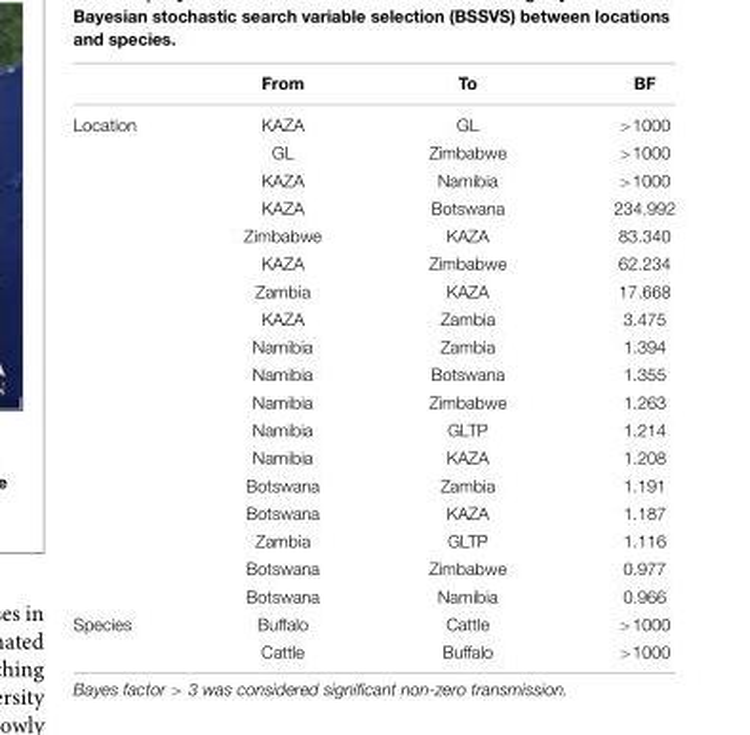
<table><thead><tr><td></td><td>From</td><td>To</td><td>BF</td></tr></thead><tbody><tr><td rowspan="18">Location</td><td>KAZA</td><td>GL</td><td>&gt;1000</td></tr><tr><td>GL</td><td>Zimbabwe</td><td>&gt;1000</td></tr><tr><td>KAZA</td><td>Namibia</td><td>&gt;1000</td></tr><tr><td>KAZA</td><td>Botswana</td><td>234.992</td></tr><tr><td>Zimbabwe</td><td>KAZA</td><td>83.340</td></tr><tr><td>KAZA</td><td>Zimbabwe</td><td>62.234</td></tr><tr><td>Zambia</td><td>KAZA</td><td>17.668</td></tr><tr><td>KAZA</td><td>Zambia</td><td>3.475</td></tr><tr><td>Namibia</td><td>Zambia</td><td>1.394</td></tr><tr><td>Namibia</td><td>Botswana</td><td>1.355</td></tr><tr><td>Namibia</td><td>Zimbabwe</td><td>1.263</td></tr><tr><td>Namibia</td><td>GLTP</td><td>1.214</td></tr><tr><td>Namibia</td><td>KAZA</td><td>1.208</td></tr><tr><td>Botswana</td><td>Zambia</td><td>1.191</td></tr><tr><td>Botswana</td><td>KAZA</td><td>1.187</td></tr><tr><td>Zambia</td><td>GLTP</td><td>1.116</td></tr><tr><td>Botswana</td><td>Zimbabwe</td><td>0.977</td></tr><tr><td>Botswana</td><td>Namibia</td><td>0.966</td></tr><tr><td rowspan="2">Species</td><td>Buffalo</td><td>Cattle</td><td>&gt;1000</td></tr><tr><td>Cattle</td><td>Buffalo</td><td>&gt;1000</td></tr></tbody></table>